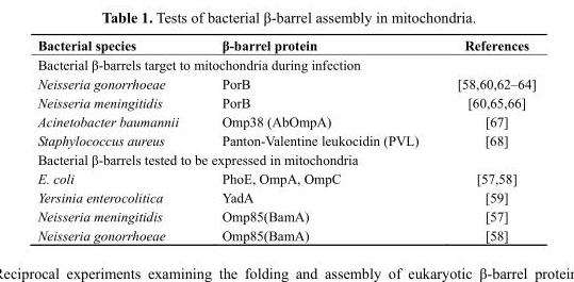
<table><thead><tr><td>Bacterial species</td><td>β-barrel protein</td><td>References</td></tr></thead><tbody><tr><td colspan="3">Bacterial β-barrels target to mitochondria during infection</td></tr><tr><td>Neisseria gonorrhoeae</td><td>PorB</td><td>[58,60,62–64]</td></tr><tr><td>Neisseria meningitidis</td><td>PorB</td><td>[60,65,66]</td></tr><tr><td>Acinetobacter baumannii</td><td>Omp38 (AbOmpA)</td><td>[67]</td></tr><tr><td>Staphylococcus aureus</td><td>Panton-Valentine leukocidin (PVL)</td><td>[68]</td></tr><tr><td colspan="3">Bacterial β-barrels tested to be expressed in mitochondria</td></tr><tr><td>E. coli</td><td>PhoE, OmpA, OmpC</td><td>[57,58]</td></tr><tr><td>Yersinia enterocolitica</td><td>YadA</td><td>[59]</td></tr><tr><td>Neisseria meningitidis</td><td>Omp85(BamA)</td><td>[57]</td></tr><tr><td>Neisseria gonorrhoeae</td><td>Omp85(BamA)</td><td>[58]</td></tr></tbody></table>